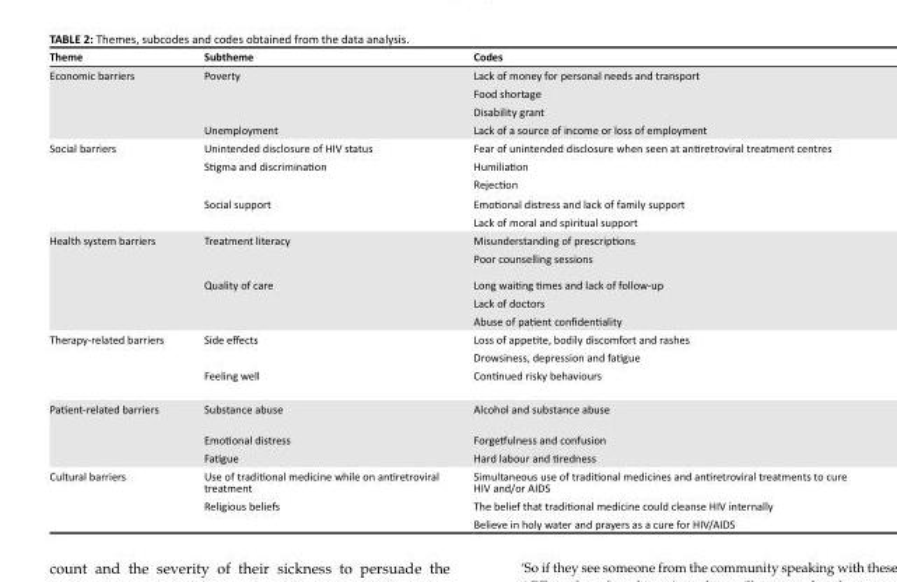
<table><thead><tr><td>Theme</td><td>Subtheme</td><td>Codes</td></tr></thead><tbody><tr><td rowspan="4">Economic barriers</td><td>Poverty</td><td>Lack of money for personal needs and transport</td></tr><tr><td></td><td>Food shortage</td></tr><tr><td></td><td>Disability grant</td></tr><tr><td>Unemployment</td><td>Lack of a source of income or loss of employment</td></tr><tr><td rowspan="5">Social barriers</td><td>Unintended disclosure of HIV status</td><td>Fear of unintended disclosure when seen at antiretroviral treatment centres</td></tr><tr><td>Stigma and discrimination</td><td>Humiliation</td></tr><tr><td></td><td>Rejection</td></tr><tr><td>Social support</td><td>Emotional distress and lack of family support</td></tr><tr><td></td><td>Lack of moral and spiritual support</td></tr><tr><td rowspan="5">Health system barriers</td><td>Treatment literacy</td><td>Misunderstanding of prescriptions</td></tr><tr><td></td><td>Poor counselling sessions</td></tr><tr><td>Quality of care</td><td>Long waiting times and lack of follow-up</td></tr><tr><td></td><td>Lack of doctors</td></tr><tr><td></td><td>Abuse of patient confidentiality</td></tr><tr><td rowspan="3">Therapy-related barriers</td><td>Side effects</td><td>Loss of appetite, bodily discomfort and rashes</td></tr><tr><td></td><td>Drowsiness, depression and fatigue</td></tr><tr><td>Feeling well</td><td>Continued risky behaviours</td></tr><tr><td rowspan="3">Patient-related barriers</td><td>Substance abuse</td><td>Alcohol and substance abuse</td></tr><tr><td>Emotional distress</td><td>Forgetfulness and confusion</td></tr><tr><td>Fatigue</td><td>Hard labour and tiredness</td></tr><tr><td rowspan="3">Cultural barriers</td><td>Use of traditional medicine while on antiretroviral treatment</td><td>Simultaneous use of traditional medicines and antiretroviral treatments to cure HIV and/or AIDS</td></tr><tr><td>Religious beliefs</td><td>The belief that traditional medicine could cleanse HIV internally</td></tr><tr><td></td><td>Believe in holy water and prayers as a cure for HIV/AIDS</td></tr></tbody></table>